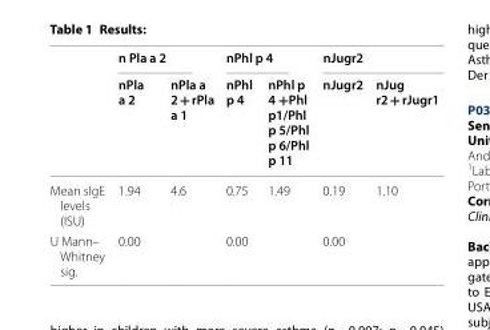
<table><thead><tr><td rowspan="2"></td><td colspan="2">n Pla a 2</td><td colspan="2">nPhl p 4</td><td colspan="2">nJugr2</td></tr><tr><td>nPla a 2</td><td>nPla a 2 + rPla a 1</td><td>nPhl p 4</td><td>nPhl p 4 +Phl p1/Phl p 5/Phl p 6/Phl p 11</td><td>nJugr2</td><td>nJug r2 + rJugr1</td></tr></thead><tbody><tr><td>Mean sIgE levels (ISU)</td><td>1.94</td><td>4.6</td><td>0.75</td><td>1.49</td><td>0.19</td><td>1.10</td></tr><tr><td>U Mann– Whitney sig.</td><td>0.00</td><td></td><td>0.00</td><td></td><td>0.00</td><td></td></tr></tbody></table>